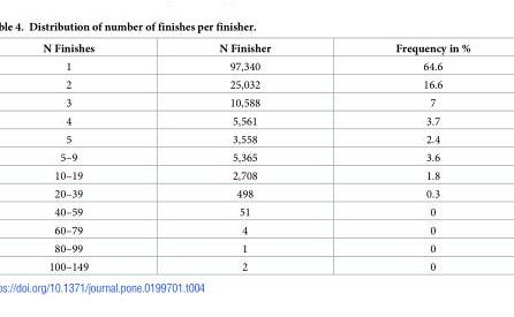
<table><thead><tr><td>N Finishes</td><td>N Finisher</td><td>Frequency in %</td></tr></thead><tbody><tr><td>1</td><td>97,340</td><td>64.6</td></tr><tr><td>2</td><td>25,032</td><td>16.6</td></tr><tr><td>3</td><td>10,588</td><td>7</td></tr><tr><td>4</td><td>5,561</td><td>3.7</td></tr><tr><td>5</td><td>3,558</td><td>2.4</td></tr><tr><td>5–9</td><td>5,365</td><td>3.6</td></tr><tr><td>10–19</td><td>2,708</td><td>1.8</td></tr><tr><td>20–39</td><td>498</td><td>0.3</td></tr><tr><td>40–59</td><td>51</td><td>0</td></tr><tr><td>60–79</td><td>4</td><td>0</td></tr><tr><td>80–99</td><td>1</td><td>0</td></tr><tr><td>100–149</td><td>2</td><td>0</td></tr></tbody></table>